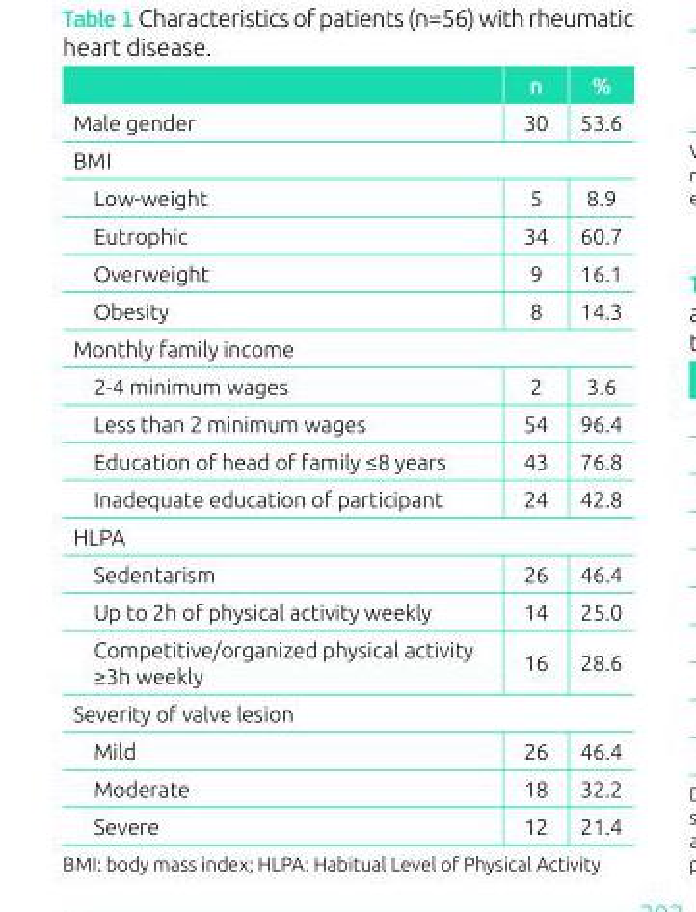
<table><thead><tr><td></td><td>n</td><td>%</td></tr></thead><tbody><tr><td>Male gender</td><td>30</td><td>53.6</td></tr><tr><td colspan="3">BMI</td></tr><tr><td>Low-weight</td><td>5</td><td>8.9</td></tr><tr><td>Eutrophic</td><td>34</td><td>60.7</td></tr><tr><td>Overweight</td><td>9</td><td>16.1</td></tr><tr><td>Obesity</td><td>8</td><td>14.3</td></tr><tr><td colspan="3">Monthly family income</td></tr><tr><td>2-4 minimum wages</td><td>2</td><td>3.6</td></tr><tr><td>Less than 2 minimum wages</td><td>54</td><td>96.4</td></tr><tr><td>Education of head of family ≤8 years</td><td>43</td><td>76.8</td></tr><tr><td>Inadequate education of participant</td><td>24</td><td>42.8</td></tr><tr><td colspan="3">HLPA</td></tr><tr><td>Sedentarism</td><td>26</td><td>46.4</td></tr><tr><td>Up to 2h of physical activity weekly</td><td>14</td><td>25.0</td></tr><tr><td>Competitive/organized physical activity ≥3h weekly</td><td>16</td><td>28.6</td></tr><tr><td colspan="3">Severity of valve lesion</td></tr><tr><td>Mild</td><td>26</td><td>46.4</td></tr><tr><td>Moderate</td><td>18</td><td>32.2</td></tr><tr><td>Severe</td><td>12</td><td>21.4</td></tr></tbody></table>